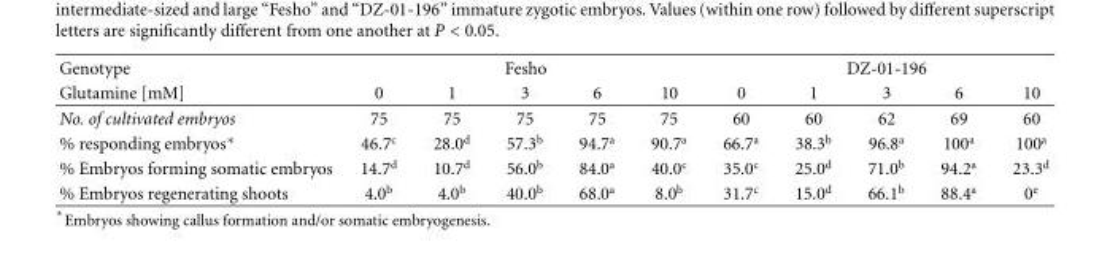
<table><thead><tr><td rowspan="2">Genotype Glutamine [mM]</td><td colspan="5">Fesho</td><td colspan="5">DZ-01-196</td></tr><tr><td>0</td><td>1</td><td>3</td><td>6</td><td>10</td><td>0</td><td>1</td><td>3</td><td>6</td><td>10</td></tr></thead><tbody><tr><td>No. of cultivated embryos</td><td>75</td><td>75</td><td>75</td><td>75</td><td>75</td><td>60</td><td>60</td><td>62</td><td>69</td><td>60</td></tr><tr><td>% responding embryos∗</td><td>46.7<sup>c</sup></td><td>28.0<sup>d</sup></td><td>57.3<sup>b</sup></td><td>94.7<sup>a</sup></td><td>90.7<sup>a</sup></td><td>66.7<sup>a</sup></td><td>38.3<sup>b</sup></td><td>96.8<sup>a</sup></td><td>100<sup>a</sup></td><td>100<sup>a</sup></td></tr><tr><td>% Embryos forming somatic embryos</td><td>14.7<sup>d</sup></td><td>10.7<sup>d</sup></td><td>56.0<sup>b</sup></td><td>84.0<sup>a</sup></td><td>40.0<sup>c</sup></td><td>35.0<sup>c</sup></td><td>25.0<sup>d</sup></td><td>71.0<sup>b</sup></td><td>94.2<sup>a</sup></td><td>23.3<sup>d</sup></td></tr><tr><td>% Embryos regenerating shoots</td><td>4.0<sup>b</sup></td><td>4.0<sup>b</sup></td><td>40.0<sup>b</sup></td><td>68.0<sup>a</sup></td><td>8.0<sup>b</sup></td><td>31.7<sup>c</sup></td><td>15.0<sup>d</sup></td><td>66.1<sup>b</sup></td><td>88.4<sup>a</sup></td><td>0<sup>e</sup></td></tr></tbody></table>